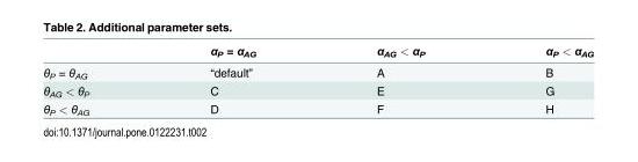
<table><thead><tr><td></td><td>α<sub>P</sub> = α<sub>AG</sub></td><td>α<sub>AG</sub> &lt; α<sub>P</sub></td><td>α<sub>P</sub> &lt; α<sub>AG</sub></td></tr></thead><tbody><tr><td>θ<sub>P</sub> = θ<sub>AG</sub></td><td>“default”</td><td>A</td><td>B</td></tr><tr><td>θ<sub>AG</sub> &lt; θ<sub>P</sub></td><td>C</td><td>E</td><td>G</td></tr><tr><td>θ<sub>P</sub> &lt; θ<sub>AG</sub></td><td>D</td><td>F</td><td>H</td></tr></tbody></table>